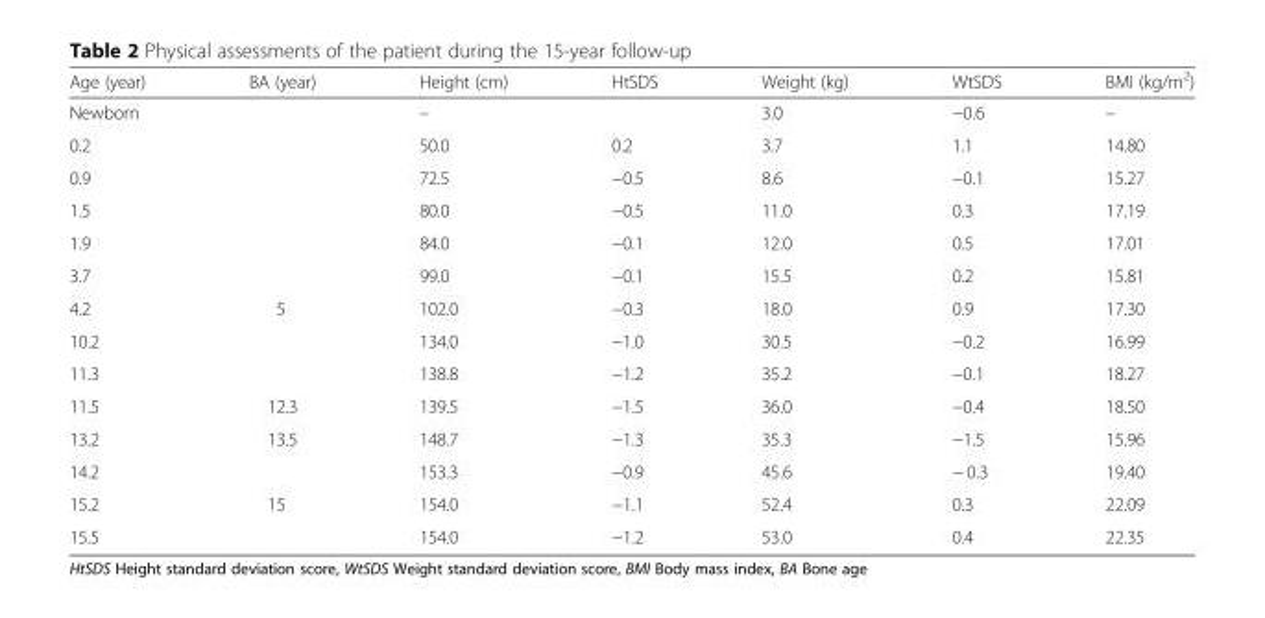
<table><thead><tr><td>Age (year)</td><td>BA (year)</td><td>Height (cm)</td><td>HtSDS</td><td>Weight (kg)</td><td>WtSDS</td><td>BMI (kg/m<sup>2</sup>)</td></tr></thead><tbody><tr><td>Newborn</td><td></td><td>–</td><td></td><td>3.0</td><td>−0.6</td><td>–</td></tr><tr><td>0.2</td><td></td><td>50.0</td><td>0.2</td><td>3.7</td><td>1.1</td><td>14.80</td></tr><tr><td>0.9</td><td></td><td>72.5</td><td>−0.5</td><td>8.6</td><td>−0.1</td><td>15.27</td></tr><tr><td>1.5</td><td></td><td>80.0</td><td>−0.5</td><td>11.0</td><td>0.3</td><td>17.19</td></tr><tr><td>1.9</td><td></td><td>84.0</td><td>−0.1</td><td>12.0</td><td>0.5</td><td>17.01</td></tr><tr><td>3.7</td><td></td><td>99.0</td><td>−0.1</td><td>15.5</td><td>0.2</td><td>15.81</td></tr><tr><td>4.2</td><td>5</td><td>102.0</td><td>−0.3</td><td>18.0</td><td>0.9</td><td>17.30</td></tr><tr><td>10.2</td><td></td><td>134.0</td><td>−1.0</td><td>30.5</td><td>−0.2</td><td>16.99</td></tr><tr><td>11.3</td><td></td><td>138.8</td><td>−1.2</td><td>35.2</td><td>−0.1</td><td>18.27</td></tr><tr><td>11.5</td><td>12.3</td><td>139.5</td><td>−1.5</td><td>36.0</td><td>−0.4</td><td>18.50</td></tr><tr><td>13.2</td><td>13.5</td><td>148.7</td><td>−1.3</td><td>35.3</td><td>−1.5</td><td>15.96</td></tr><tr><td>14.2</td><td></td><td>153.3</td><td>−0.9</td><td>45.6</td><td>− 0.3</td><td>19.40</td></tr><tr><td>15.2</td><td>15</td><td>154.0</td><td>−1.1</td><td>52.4</td><td>0.3</td><td>22.09</td></tr><tr><td>15.5</td><td></td><td>154.0</td><td>−1.2</td><td>53.0</td><td>0.4</td><td>22.35</td></tr></tbody></table>